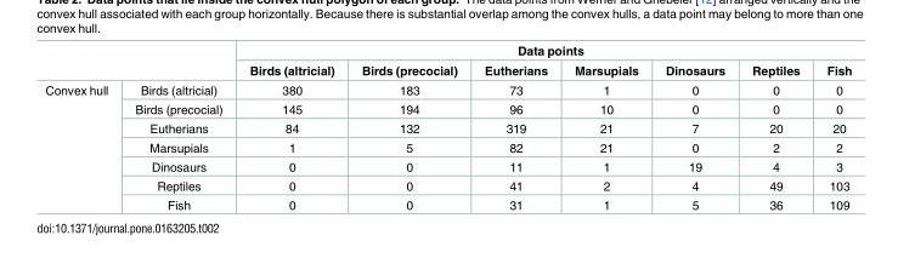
<table><thead><tr><td rowspan="2"></td><td rowspan="2"></td><td colspan="7">Data points</td></tr><tr><td>Birds (altricial)</td><td>Birds (precocial)</td><td>Eutherians</td><td>Marsupials</td><td>Dinosaurs</td><td>Reptiles</td><td>Fish</td></tr></thead><tbody><tr><td rowspan="7">Convex hull</td><td>Birds (altricial)</td><td>380</td><td>183</td><td>73</td><td>1</td><td>0</td><td>0</td><td>0</td></tr><tr><td>Birds (precocial)</td><td>145</td><td>194</td><td>96</td><td>10</td><td>0</td><td>0</td><td>0</td></tr><tr><td>Eutherians</td><td>84</td><td>132</td><td>319</td><td>21</td><td>7</td><td>20</td><td>20</td></tr><tr><td>Marsupials</td><td>1</td><td>5</td><td>82</td><td>21</td><td>0</td><td>2</td><td>2</td></tr><tr><td>Dinosaurs</td><td>0</td><td>0</td><td>11</td><td>1</td><td>19</td><td>4</td><td>3</td></tr><tr><td>Reptiles</td><td>0</td><td>0</td><td>41</td><td>2</td><td>4</td><td>49</td><td>103</td></tr><tr><td>Fish</td><td>0</td><td>0</td><td>31</td><td>1</td><td>5</td><td>36</td><td>109</td></tr></tbody></table>